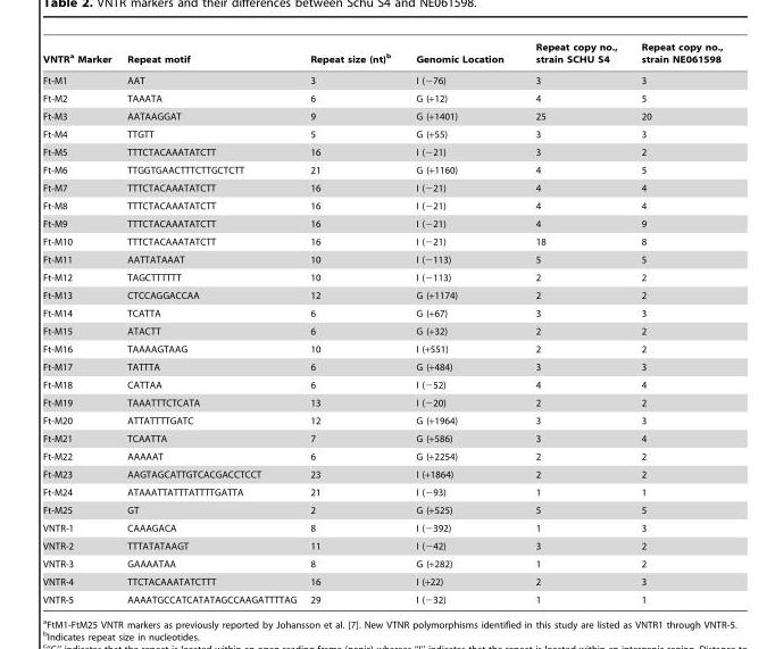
<table><thead><tr><td>VNTR<sup>a</sup> Marker</td><td>Repeat motif</td><td>Repeat size (nt)<sup>b</sup></td><td>Genomic Location</td><td>Repeat copy no., strain SCHU S4</td><td>Repeat copy no., strain NE061598</td></tr></thead><tbody><tr><td>Ft-M1</td><td>AAT</td><td>3</td><td>I (−76)</td><td>3</td><td>3</td></tr><tr><td>Ft-M2</td><td>TAAATA</td><td>6</td><td>G (+12)</td><td>4</td><td>5</td></tr><tr><td>Ft-M3</td><td>AATAAGGAT</td><td>9</td><td>G (+1401)</td><td>25</td><td>20</td></tr><tr><td>Ft-M4</td><td>TTGTT</td><td>5</td><td>G (+55)</td><td>3</td><td>3</td></tr><tr><td>Ft-M5</td><td>TTTCTACAAATATCTT</td><td>16</td><td>I (−21)</td><td>3</td><td>2</td></tr><tr><td>Ft-M6</td><td>TTGGTGAACTTTCTTGCTCTT</td><td>21</td><td>G (+1160)</td><td>4</td><td>5</td></tr><tr><td>Ft-M7</td><td>TTTCTACAAATATCTT</td><td>16</td><td>I (−21)</td><td>4</td><td>4</td></tr><tr><td>Ft-M8</td><td>TTTCTACAAATATCTT</td><td>16</td><td>I (−21)</td><td>4</td><td>4</td></tr><tr><td>Ft-M9</td><td>TTTCTACAAATATCTT</td><td>16</td><td>I (−21)</td><td>4</td><td>9</td></tr><tr><td>Ft-M10</td><td>TTTCTACAAATATCTT</td><td>16</td><td>I (−21)</td><td>18</td><td>8</td></tr><tr><td>Ft-M11</td><td>AATTATAAAT</td><td>10</td><td>I (−113)</td><td>5</td><td>5</td></tr><tr><td>Ft-M12</td><td>TAGCTTTTTT</td><td>10</td><td>I (−113)</td><td>2</td><td>2</td></tr><tr><td>Ft-M13</td><td>CTCCAGGACCAA</td><td>12</td><td>G (+1174)</td><td>2</td><td>2</td></tr><tr><td>Ft-M14</td><td>TCATTA</td><td>6</td><td>G (+67)</td><td>3</td><td>3</td></tr><tr><td>Ft-M15</td><td>ATACTT</td><td>6</td><td>G (+32)</td><td>2</td><td>2</td></tr><tr><td>Ft-M16</td><td>TAAAAGTAAG</td><td>10</td><td>I (+551)</td><td>2</td><td>2</td></tr><tr><td>Ft-M17</td><td>TATTTA</td><td>6</td><td>G (+484)</td><td>3</td><td>3</td></tr><tr><td>Ft-M18</td><td>CATTAA</td><td>6</td><td>I (−52)</td><td>4</td><td>4</td></tr><tr><td>Ft-M19</td><td>TAAATTTCTCATA</td><td>13</td><td>I (−20)</td><td>2</td><td>2</td></tr><tr><td>Ft-M20</td><td>ATTATTTTGATC</td><td>12</td><td>G (+1964)</td><td>3</td><td>3</td></tr><tr><td>Ft-M21</td><td>TCAATTA</td><td>7</td><td>G (+586)</td><td>3</td><td>4</td></tr><tr><td>Ft-M22</td><td>AAAAAT</td><td>6</td><td>G (+2254)</td><td>2</td><td>2</td></tr><tr><td>Ft-M23</td><td>AAGTAGCATTGTCACGACCTCCT</td><td>23</td><td>I (+1864)</td><td>2</td><td>2</td></tr><tr><td>Ft-M24</td><td>ATAAATTATTTATTTTGATTA</td><td>21</td><td>I (−93)</td><td>1</td><td>1</td></tr><tr><td>Ft-M25</td><td>GT</td><td>2</td><td>G (+525)</td><td>5</td><td>5</td></tr><tr><td>VNTR-1</td><td>CAAAGACA</td><td>8</td><td>I (−392)</td><td>1</td><td>3</td></tr><tr><td>VNTR-2</td><td>TTTATATAAGT</td><td>11</td><td>I (−42)</td><td>3</td><td>2</td></tr><tr><td>VNTR-3</td><td>GAAAATAA</td><td>8</td><td>G (+282)</td><td>1</td><td>2</td></tr><tr><td>VNTR-4</td><td>TTCTACAAATATCTTT</td><td>16</td><td>I (+22)</td><td>2</td><td>3</td></tr><tr><td>VNTR-5</td><td>AAAATGCCATCATATAGCCAAGATTTTAG</td><td>29</td><td>I (−32)</td><td>1</td><td>1</td></tr></tbody></table>